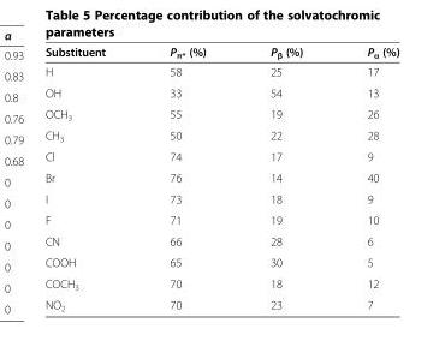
<table><thead><tr><td>Substituent</td><td>P<sub>π*</sub> (%)</td><td>P<sub>β</sub> (%)</td><td>P<sub>α</sub> (%)</td></tr></thead><tbody><tr><td>H</td><td>58</td><td>25</td><td>17</td></tr><tr><td>OH</td><td>33</td><td>54</td><td>13</td></tr><tr><td>OCH<sub>3</sub></td><td>55</td><td>19</td><td>26</td></tr><tr><td>CH<sub>3</sub></td><td>50</td><td>22</td><td>28</td></tr><tr><td>Cl</td><td>74</td><td>17</td><td>9</td></tr><tr><td>Br</td><td>76</td><td>14</td><td>40</td></tr><tr><td>I</td><td>73</td><td>18</td><td>9</td></tr><tr><td>F</td><td>71</td><td>19</td><td>10</td></tr><tr><td>CN</td><td>66</td><td>28</td><td>6</td></tr><tr><td>COOH</td><td>65</td><td>30</td><td>5</td></tr><tr><td>COCH<sub>3</sub></td><td>70</td><td>18</td><td>12</td></tr><tr><td>NO<sub>2</sub></td><td>70</td><td>23</td><td>7</td></tr></tbody></table>